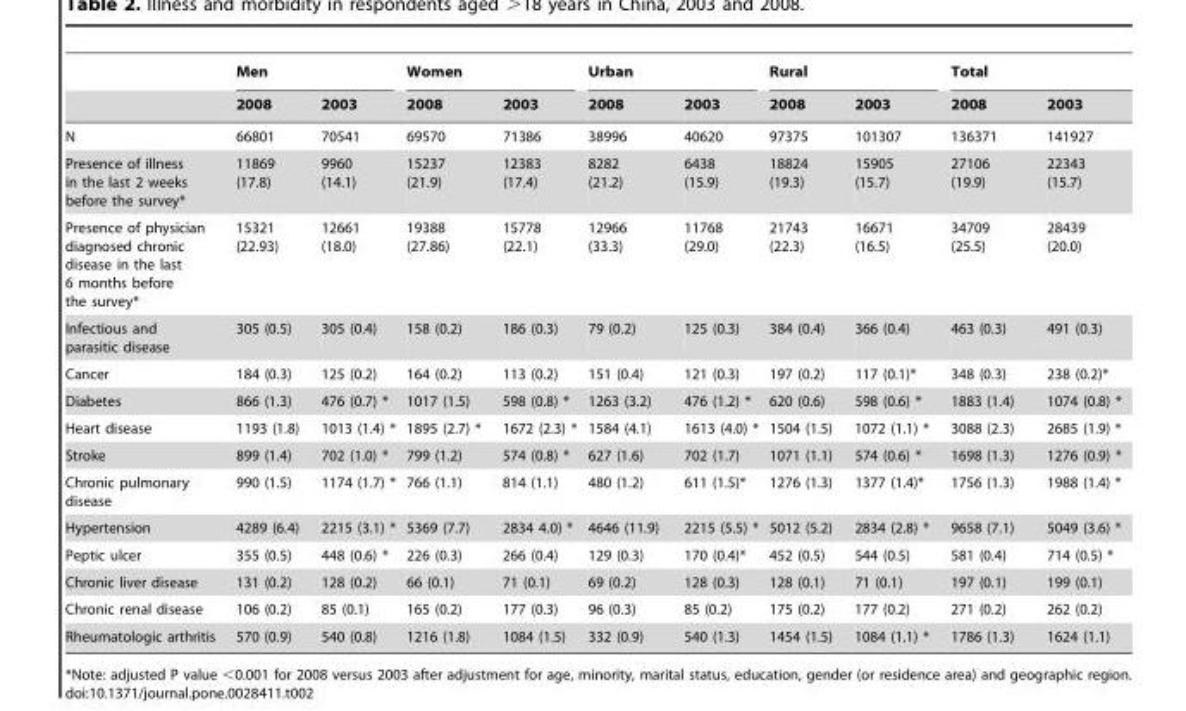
<table><thead><tr><td rowspan="2"></td><td colspan="2">Men</td><td colspan="2">Women</td><td colspan="2">Urban</td><td colspan="2">Rural</td><td colspan="2">Total</td></tr><tr><td>2008</td><td>2003</td><td>2008</td><td>2003</td><td>2008</td><td>2003</td><td>2008</td><td>2003</td><td>2008</td><td>2003</td></tr></thead><tbody><tr><td>N</td><td>66801</td><td>70541</td><td>69570</td><td>71386</td><td>38996</td><td>40620</td><td>97375</td><td>101307</td><td>136371</td><td>141927</td></tr><tr><td>Presence of illness in the last 2 weeks before the survey*</td><td>11869 (17.8)</td><td>9960 (14.1)</td><td>15237 (21.9)</td><td>12383 (17.4)</td><td>8282 (21.2)</td><td>6438 (15.9)</td><td>18824 (19.3)</td><td>15905 (15.7)</td><td>27106 (19.9)</td><td>22343 (15.7)</td></tr><tr><td>Presence of physician diagnosed chronic disease in the last 6 months before the survey*</td><td>15321 (22.93)</td><td>12661 (18.0)</td><td>19388 (27.86)</td><td>15778 (22.1)</td><td>12966 (33.3)</td><td>11768 (29.0)</td><td>21743 (22.3)</td><td>16671 (16.5)</td><td>34709 (25.5)</td><td>28439 (20.0)</td></tr><tr><td>Infectious and parasitic disease</td><td>305 (0.5)</td><td>305 (0.4)</td><td>158 (0.2)</td><td>186 (0.3)</td><td>79 (0.2)</td><td>125 (0.3)</td><td>384 (0.4)</td><td>366 (0.4)</td><td>463 (0.3)</td><td>491 (0.3)</td></tr><tr><td>Cancer</td><td>184 (0.3)</td><td>125 (0.2)</td><td>164 (0.2)</td><td>113 (0.2)</td><td>151 (0.4)</td><td>121 (0.3)</td><td>197 (0.2)</td><td>117 (0.1)*</td><td>348 (0.3)</td><td>238 (0.2)*</td></tr><tr><td>Diabetes</td><td>866 (1.3)</td><td>476 (0.7) *</td><td>1017 (1.5)</td><td>598 (0.8) *</td><td>1263 (3.2)</td><td>476 (1.2) *</td><td>620 (0.6)</td><td>598 (0.6) *</td><td>1883 (1.4)</td><td>1074 (0.8) *</td></tr><tr><td>Heart disease</td><td>1193 (1.8)</td><td>1013 (1.4) *</td><td>1895 (2.7) *</td><td>1672 (2.3) *</td><td>1584 (4.1)</td><td>1613 (4.0) *</td><td>1504 (1.5)</td><td>1072 (1.1) *</td><td>3088 (2.3)</td><td>2685 (1.9) *</td></tr><tr><td>Stroke</td><td>899 (1.4)</td><td>702 (1.0) *</td><td>799 (1.2)</td><td>574 (0.8) *</td><td>627 (1.6)</td><td>702 (1.7)</td><td>1071 (1.1)</td><td>574 (0.6) *</td><td>1698 (1.3)</td><td>1276 (0.9) *</td></tr><tr><td>Chronic pulmonary disease</td><td>990 (1.5)</td><td>1174 (1.7) *</td><td>766 (1.1)</td><td>814 (1.1)</td><td>480 (1.2)</td><td>611 (1.5)*</td><td>1276 (1.3)</td><td>1377 (1.4)*</td><td>1756 (1.3)</td><td>1988 (1.4) *</td></tr><tr><td>Hypertension</td><td>4289 (6.4)</td><td>2215 (3.1) *</td><td>5369 (7.7)</td><td>2834 4.0) *</td><td>4646 (11.9)</td><td>2215 (5.5) *</td><td>5012 (5.2)</td><td>2834 (2.8) *</td><td>9658 (7.1)</td><td>5049 (3.6) *</td></tr><tr><td>Peptic ulcer</td><td>355 (0.5)</td><td>448 (0.6) *</td><td>226 (0.3)</td><td>266 (0.4)</td><td>129 (0.3)</td><td>170 (0.4)*</td><td>452 (0.5)</td><td>544 (0.5)</td><td>581 (0.4)</td><td>714 (0.5) *</td></tr><tr><td>Chronic liver disease</td><td>131 (0.2)</td><td>128 (0.2)</td><td>66 (0.1)</td><td>71 (0.1)</td><td>69 (0.2)</td><td>128 (0.3)</td><td>128 (0.1)</td><td>71 (0.1)</td><td>197 (0.1)</td><td>199 (0.1)</td></tr><tr><td>Chronic renal disease</td><td>106 (0.2)</td><td>85 (0.1)</td><td>165 (0.2)</td><td>177 (0.3)</td><td>96 (0.3)</td><td>85 (0.2)</td><td>175 (0.2)</td><td>177 (0.2)</td><td>271 (0.2)</td><td>262 (0.2)</td></tr><tr><td>Rheumatologic arthritis</td><td>570 (0.9)</td><td>540 (0.8)</td><td>1216 (1.8)</td><td>1084 (1.5)</td><td>332 (0.9)</td><td>540 (1.3)</td><td>1454 (1.5)</td><td>1084 (1.1) *</td><td>1786 (1.3)</td><td>1624 (1.1)</td></tr></tbody></table>